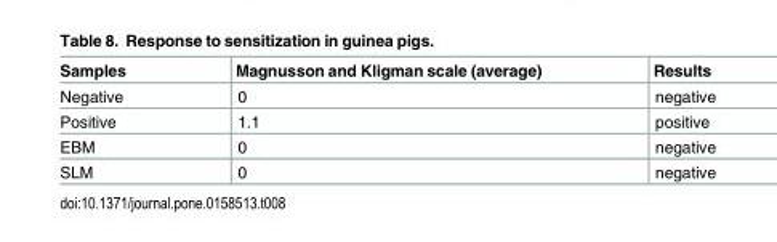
<table><thead><tr><td>Samples</td><td>Magnusson and Kligman scale (average)</td><td>Results</td></tr></thead><tbody><tr><td>Negative</td><td>0</td><td>negative</td></tr><tr><td>Positive</td><td>1.1</td><td>positive</td></tr><tr><td>EBM</td><td>0</td><td>negative</td></tr><tr><td>SLM</td><td>0</td><td>negative</td></tr></tbody></table>